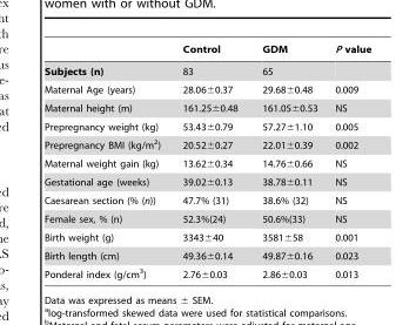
<table><thead><tr><td></td><td>Control</td><td>GDM</td><td>P value</td></tr></thead><tbody><tr><td>Subjects (n)</td><td>83</td><td>65</td><td></td></tr><tr><td>Maternal Age (years)</td><td>28.06±0.37</td><td>29.68±0.48</td><td>0.009</td></tr><tr><td>Maternal height (m)</td><td>161.25±0.48</td><td>161.05±0.53</td><td>NS</td></tr><tr><td>Prepregnancy weight (kg)</td><td>53.43±0.79</td><td>57.27±1.10</td><td>0.005</td></tr><tr><td>Prepregnancy BMI (kg/m<sup>2</sup>)</td><td>20.52±0.27</td><td>22.01±0.39</td><td>0.002</td></tr><tr><td>Maternal weight gain (kg)</td><td>13.62±0.34</td><td>14.76±0.66</td><td>NS</td></tr><tr><td>Gestational age (weeks)</td><td>39.02±0.13</td><td>38.78±0.11</td><td>NS</td></tr><tr><td>Caesarean section (% (n))</td><td>47.7% (31)</td><td>38.6% (32)</td><td>NS</td></tr><tr><td>Female sex, % (n)</td><td>52.3%(24)</td><td>50.6%(33)</td><td>NS</td></tr><tr><td>Birth weight (g)</td><td>3343±40</td><td>3581±58</td><td>0.001</td></tr><tr><td>Birth length (cm)</td><td>49.36±0.14</td><td>49.87±0.16</td><td>0.023</td></tr><tr><td>Ponderal index (g/cm<sup>3</sup>)</td><td>2.76±0.03</td><td>2.86±0.03</td><td>0.013</td></tr></tbody></table>